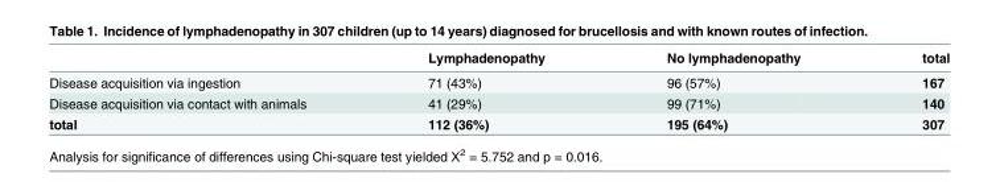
<table><thead><tr><td></td><td>Lymphadenopathy</td><td>No lymphadenopathy</td><td>total</td></tr></thead><tbody><tr><td>Disease acquisition via ingestion</td><td>71 (43%)</td><td>96 (57%)</td><td>167</td></tr><tr><td>Disease acquisition via contact with animals</td><td>41 (29%)</td><td>99 (71%)</td><td>140</td></tr><tr><td>total</td><td>112 (36%)</td><td>195 (64%)</td><td>307</td></tr></tbody></table>